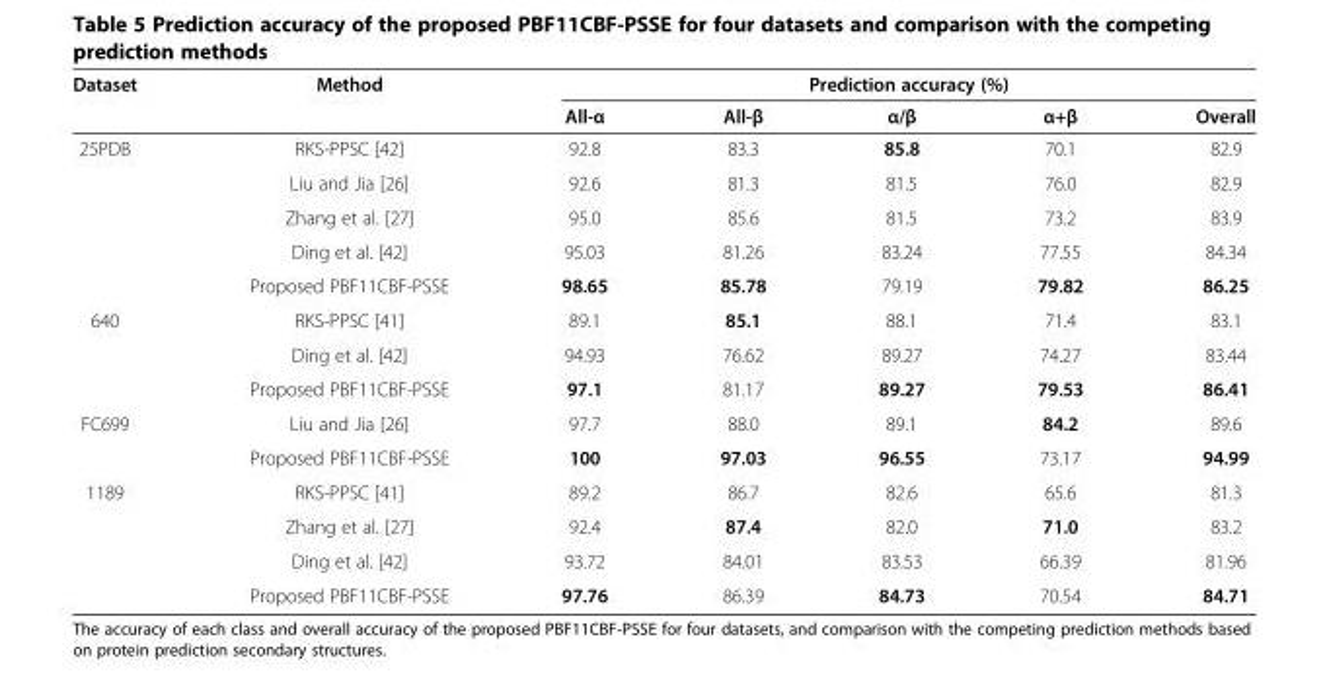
<table><thead><tr><td rowspan="2">Dataset</td><td rowspan="2">Method</td><td colspan="5">Prediction accuracy (%)</td></tr><tr><td>All-α</td><td>All-β</td><td>α/β</td><td>α+β</td><td>Overall</td></tr></thead><tbody><tr><td rowspan="5">25PDB</td><td>RKS-PPSC [42]</td><td>92.8</td><td>83.3</td><td>85.8</td><td>70.1</td><td>82.9</td></tr><tr><td>Liu and Jia [26]</td><td>92.6</td><td>81.3</td><td>81.5</td><td>76.0</td><td>82.9</td></tr><tr><td>Zhang et al. [27]</td><td>95.0</td><td>85.6</td><td>81.5</td><td>73.2</td><td>83.9</td></tr><tr><td>Ding et al. [42]</td><td>95.03</td><td>81.26</td><td>83.24</td><td>77.55</td><td>84.34</td></tr><tr><td>Proposed PBF11CBF-PSSE</td><td>98.65</td><td>85.78</td><td>79.19</td><td>79.82</td><td>86.25</td></tr><tr><td rowspan="3">640</td><td>RKS-PPSC [41]</td><td>89.1</td><td>85.1</td><td>88.1</td><td>71.4</td><td>83.1</td></tr><tr><td>Ding et al. [42]</td><td>94.93</td><td>76.62</td><td>89.27</td><td>74.27</td><td>83.44</td></tr><tr><td>Proposed PBF11CBF-PSSE</td><td>97.1</td><td>81.17</td><td>89.27</td><td>79.53</td><td>86.41</td></tr><tr><td rowspan="2">FC699</td><td>Liu and Jia [26]</td><td>97.7</td><td>88.0</td><td>89.1</td><td>84.2</td><td>89.6</td></tr><tr><td>Proposed PBF11CBF-PSSE</td><td>100</td><td>97.03</td><td>96.55</td><td>73.17</td><td>94.99</td></tr><tr><td rowspan="4">1189</td><td>RKS-PPSC [41]</td><td>89.2</td><td>86.7</td><td>82.6</td><td>65.6</td><td>81.3</td></tr><tr><td>Zhang et al. [27]</td><td>92.4</td><td>87.4</td><td>82.0</td><td>71.0</td><td>83.2</td></tr><tr><td>Ding et al. [42]</td><td>93.72</td><td>84.01</td><td>83.53</td><td>66.39</td><td>81.96</td></tr><tr><td>Proposed PBF11CBF-PSSE</td><td>97.76</td><td>86.39</td><td>84.73</td><td>70.54</td><td>84.71</td></tr></tbody></table>